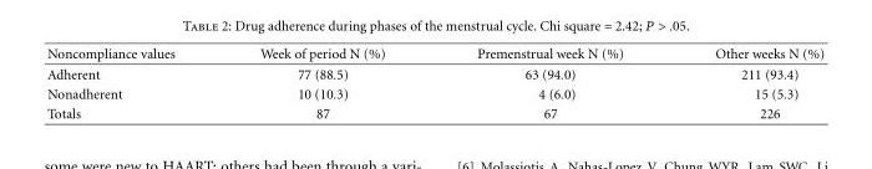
<table><tbody><tr><td>Noncompliance values</td><td>Week of period N (%)</td><td>Premenstrual week N (%)</td><td>Other weeks N (%)</td></tr><tr><td>Adherent</td><td>77 (88.5)</td><td>63 (94.0)</td><td>211 (93.4)</td></tr><tr><td>Nonadherent</td><td>10 (10.3)</td><td>4 (6.0)</td><td>15 (5.3)</td></tr><tr><td>Totals</td><td>87</td><td>67</td><td>226</td></tr></tbody></table>